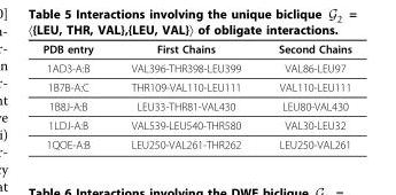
<table><thead><tr><td>PDB entry</td><td>First Chains</td><td>Second Chains</td></tr></thead><tbody><tr><td>1AD3-A:B</td><td>VAL396-THR398-LEU399</td><td>VAL86-LEU97</td></tr><tr><td>1B7B-A:C</td><td>THR109-VAL110-LEU111</td><td>VAL110-LEU111</td></tr><tr><td>1B8J-A:B</td><td>LEU33-THR81-VAL430</td><td>LEU80-VAL430</td></tr><tr><td>1LDJ-A:B</td><td>VAL539-LEU540-THR580</td><td>VAL30-LEU32</td></tr><tr><td>1QOE-A:B</td><td>LEU250-VAL261-THR262</td><td>LEU250-VAL261</td></tr></tbody></table>